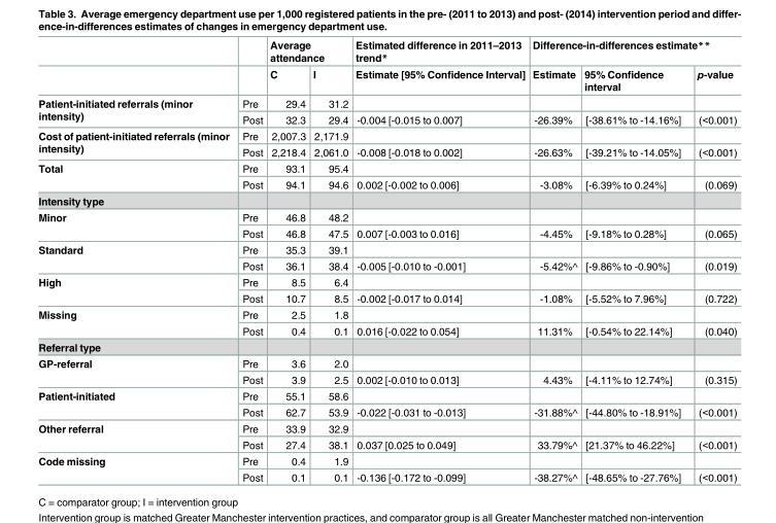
<table><thead><tr><td rowspan="2"></td><td rowspan="2"></td><td colspan="2">Average attendance</td><td rowspan="2">Estimated difference in 2011–2013 trend* Estimate [95% Confidence Interval]</td><td colspan="3">Difference-in-differences estimate**</td></tr><tr><td>C</td><td>I</td><td>Estimate</td><td>95% Confidence interval</td><td>p-value</td></tr></thead><tbody><tr><td rowspan="2">Patient-initiated referrals (minor intensity)</td><td>Pre</td><td>29.4</td><td>31.2</td><td></td><td></td><td></td><td></td></tr><tr><td>Post</td><td>32.3</td><td>29.4</td><td>-0.004 [-0.015 to 0.007]</td><td>-26.39%</td><td>[-38.61% to -14.16%]</td><td>(&lt;0.001)</td></tr><tr><td rowspan="2">Cost of patient-initiated referrals (minor intensity)</td><td>Pre</td><td>2,007.3</td><td>2,171.9</td><td></td><td></td><td></td><td></td></tr><tr><td>Post</td><td>2,218.4</td><td>2,061.0</td><td>-0.008 [-0.018 to 0.002]</td><td>-26.63%</td><td>[-39.21% to -14.05%]</td><td>(&lt;0.001)</td></tr><tr><td rowspan="2">Total</td><td>Pre</td><td>93.1</td><td>95.4</td><td></td><td></td><td></td><td></td></tr><tr><td>Post</td><td>94.1</td><td>94.6</td><td>0.002 [-0.002 to 0.006]</td><td>-3.08%</td><td>[-6.39% to 0.24%]</td><td>(0.069)</td></tr><tr><td colspan="8">Intensity type</td></tr><tr><td rowspan="2">Minor</td><td>Pre</td><td>46.8</td><td>48.2</td><td></td><td></td><td></td><td></td></tr><tr><td>Post</td><td>46.8</td><td>47.5</td><td>0.007 [-0.003 to 0.016]</td><td>-4.45%</td><td>[-9.18% to 0.28%]</td><td>(0.065)</td></tr><tr><td rowspan="2">Standard</td><td>Pre</td><td>35.3</td><td>39.1</td><td></td><td></td><td></td><td></td></tr><tr><td>Post</td><td>36.1</td><td>38.4</td><td>-0.005 [-0.010 to -0.001]</td><td>-5.42%^</td><td>[-9.86% to -0.90%]</td><td>(0.019)</td></tr><tr><td rowspan="2">High</td><td>Pre</td><td>8.5</td><td>6.4</td><td></td><td></td><td></td><td></td></tr><tr><td>Post</td><td>10.7</td><td>8.5</td><td>-0.002 [-0.017 to 0.014]</td><td>-1.08%</td><td>[-5.52% to 7.96%]</td><td>(0.722)</td></tr><tr><td rowspan="2">Missing</td><td>Pre</td><td>2.5</td><td>1.8</td><td></td><td></td><td></td><td></td></tr><tr><td>Post</td><td>0.4</td><td>0.1</td><td>0.016 [-0.022 to 0.054]</td><td>11.31%</td><td>[-0.54% to 22.14%]</td><td>(0.040)</td></tr><tr><td colspan="8">Referral type</td></tr><tr><td rowspan="2">GP-referral</td><td>Pre</td><td>3.6</td><td>2.0</td><td></td><td></td><td></td><td></td></tr><tr><td>Post</td><td>3.9</td><td>2.5</td><td>0.002 [-0.010 to 0.013]</td><td>4.43%</td><td>[-4.11% to 12.74%]</td><td>(0.315)</td></tr><tr><td rowspan="2">Patient-initiated</td><td>Pre</td><td>55.1</td><td>58.6</td><td></td><td></td><td></td><td></td></tr><tr><td>Post</td><td>62.7</td><td>53.9</td><td>-0.022 [-0.031 to -0.013]</td><td>-31.88%^</td><td>[-44.80% to -18.91%]</td><td>(&lt;0.001)</td></tr><tr><td rowspan="2">Other referral</td><td>Pre</td><td>33.9</td><td>32.9</td><td></td><td></td><td></td><td></td></tr><tr><td>Post</td><td>27.4</td><td>38.1</td><td>0.037 [0.025 to 0.049]</td><td>33.79%^</td><td>[21.37% to 46.22%]</td><td>(&lt;0.001)</td></tr><tr><td rowspan="2">Code missing</td><td>Pre</td><td>0.4</td><td>1.9</td><td></td><td></td><td></td><td></td></tr><tr><td>Post</td><td>0.1</td><td>0.1</td><td>-0.136 [-0.172 to -0.099]</td><td>-38.27%^</td><td>[-48.65% to -27.76%]</td><td>(&lt;0.001)</td></tr></tbody></table>